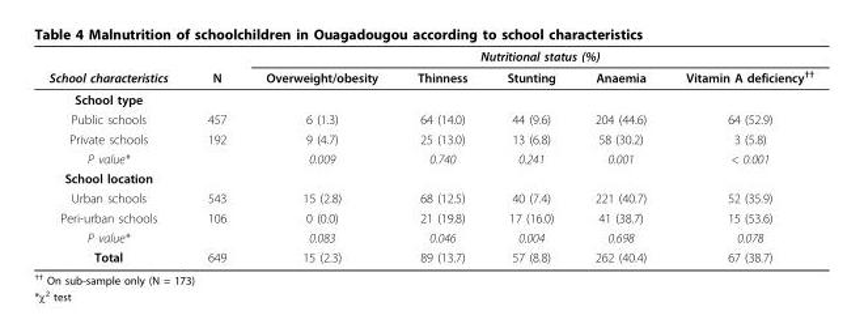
<table><thead><tr><td rowspan="2">School characteristics</td><td rowspan="2">N</td><td colspan="5">Nutritional status (%)</td></tr><tr><td>Overweight/obesity</td><td>Thinness</td><td>Stunting</td><td>Anaemia</td><td>Vitamin A deficiency<sup>††</sup></td></tr></thead><tbody><tr><td colspan="7">School type</td></tr><tr><td>Public schools</td><td>457</td><td>6 (1.3)</td><td>64 (14.0)</td><td>44 (9.6)</td><td>204 (44.6)</td><td>64 (52.9)</td></tr><tr><td>Private schools</td><td>192</td><td>9 (4.7)</td><td>25 (13.0)</td><td>13 (6.8)</td><td>58 (30.2)</td><td>3 (5.8)</td></tr><tr><td>P value*</td><td></td><td>0.009</td><td>0.740</td><td>0.241</td><td>0.001</td><td>&lt; 0.001</td></tr><tr><td colspan="7">School location</td></tr><tr><td>Urban schools</td><td>543</td><td>15 (2.8)</td><td>68 (12.5)</td><td>40 (7.4)</td><td>221 (40.7)</td><td>52 (35.9)</td></tr><tr><td>Peri-urban schools</td><td>106</td><td>0 (0.0)</td><td>21 (19.8)</td><td>17 (16.0)</td><td>41 (38.7)</td><td>15 (53.6)</td></tr><tr><td>P value*</td><td></td><td>0.083</td><td>0.046</td><td>0.004</td><td>0.698</td><td>0.078</td></tr><tr><td>Total</td><td>649</td><td>15 (2.3)</td><td>89 (13.7)</td><td>57 (8.8)</td><td>262 (40.4)</td><td>67 (38.7)</td></tr></tbody></table>